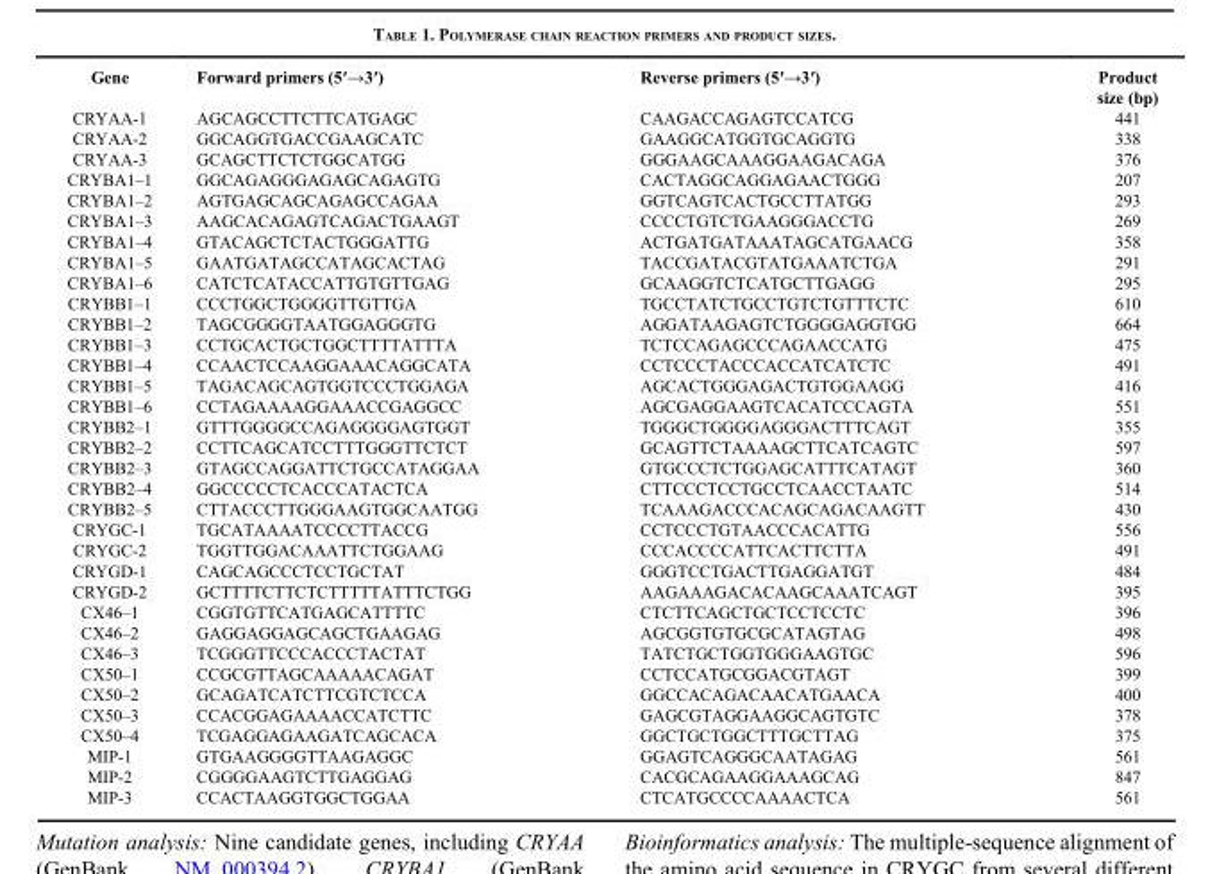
<table><thead><tr><td>Gene</td><td>Forward primers (5′→3′)</td><td>Reverse primers (5′→3′)</td><td>Product size (bp)</td></tr></thead><tbody><tr><td>CRYAA-1</td><td>AGCAGCCTTCTTCATGAGC</td><td>CAAGACCAGAGTCCATCG</td><td>441</td></tr><tr><td>CRYAA-2</td><td>GGCAGGTGACCGAAGCATC</td><td>GAAGGCATGGTGCAGGTG</td><td>338</td></tr><tr><td>CRYAA-3</td><td>GCAGCTTCTCTGGCATGG</td><td>GGGAAGCAAAGGAAGACAGA</td><td>376</td></tr><tr><td>CRYBA1–1</td><td>GGCAGAGGGAGAGCAGAGTG</td><td>CACTAGGCAGGAGAACTGGG</td><td>207</td></tr><tr><td>CRYBA1–2</td><td>AGTGAGCAGCAGAGCCAGAA</td><td>GGTCAGTCACTGCCTTATGG</td><td>293</td></tr><tr><td>CRYBA1–3</td><td>AAGCACAGAGTCAGACTGAAGT</td><td>CCCCTGTCTGAAGGGACCTG</td><td>269</td></tr><tr><td>CRYBA1–4</td><td>GTACAGCTCTACTGGGATTG</td><td>ACTGATGATAAATAGCATGAACG</td><td>358</td></tr><tr><td>CRYBA1–5</td><td>GAATGATAGCCATAGCACTAG</td><td>TACCGATACGTATGAAATCTGA</td><td>291</td></tr><tr><td>CRYBA1–6</td><td>CATCTCATACCATTGTGTTGAG</td><td>GCAAGGTCTCATGCTTGAGG</td><td>295</td></tr><tr><td>CRYBB1–1</td><td>CCCTGGCTGGGGTTGTTGA</td><td>TGCCTATCTGCCTGTCTGTTTCTC</td><td>610</td></tr><tr><td>CRYBB1–2</td><td>TAGCGGGGTAATGGAGGGTG</td><td>AGGATAAGAGTCTGGGGAGGTGG</td><td>664</td></tr><tr><td>CRYBB1–3</td><td>CCTGCACTGCTGGCTTTTATTTA</td><td>TCTCCAGAGCCCAGAACCATG</td><td>475</td></tr><tr><td>CRYBB1–4</td><td>CCAACTCCAAGGAAACAGGCATA</td><td>CCTCCCTACCCACCATCATCTC</td><td>491</td></tr><tr><td>CRYBB1–5</td><td>TAGACAGCAGTGGTCCCTGGAGA</td><td>AGCACTGGGAGACTGTGGAAGG</td><td>416</td></tr><tr><td>CRYBB1–6</td><td>CCTAGAAAAGGAAACCGAGGCC</td><td>AGCGAGGAAGTCACATCCCAGTA</td><td>551</td></tr><tr><td>CRYBB2–1</td><td>GTTTGGGGCCAGAGGGGAGTGGT</td><td>TGGGCTGGGGAGGGACTTTCAGT</td><td>355</td></tr><tr><td>CRYBB2–2</td><td>CCTTCAGCATCCTTTGGGTTCTCT</td><td>GCAGTTCTAAAAGCTTCATCAGTC</td><td>597</td></tr><tr><td>CRYBB2–3</td><td>GTAGCCAGGATTCTGCCATAGGAA</td><td>GTGCCCTCTGGAGCATTTCATAGT</td><td>360</td></tr><tr><td>CRYBB2–4</td><td>GGCCCCCTCACCCATACTCA</td><td>CTTCCCTCCTGCCTCAACCTAATC</td><td>514</td></tr><tr><td>CRYBB2–5</td><td>CTTACCCTTGGGAAGTGGCAATGG</td><td>TCAAAGACCCACAGCAGACAAGTT</td><td>430</td></tr><tr><td>CRYGC-1</td><td>TGCATAAAATCCCCTTACCG</td><td>CCTCCCTGTAACCCACATTG</td><td>556</td></tr><tr><td>CRYGC-2</td><td>TGGTTGGACAAATTCTGGAAG</td><td>CCCACCCCATTCACTTCTTA</td><td>491</td></tr><tr><td>CRYGD-1</td><td>CAGCAGCCCTCCTGCTAT</td><td>GGGTCCTGACTTGAGGATGT</td><td>484</td></tr><tr><td>CRYGD-2</td><td>GCTTTTCTTCTCTTTTTATTTCTGG</td><td>AAGAAAGACACAAGCAAATCAGT</td><td>395</td></tr><tr><td>CX46–1</td><td>CGGTGTTCATGAGCATTTTC</td><td>CTCTTCAGCTGCTCCTCCTC</td><td>396</td></tr><tr><td>CX46–2</td><td>GAGGAGGAGCAGCTGAAGAG</td><td>AGCGGTGTGCGCATAGTAG</td><td>498</td></tr><tr><td>CX46–3</td><td>TCGGGTTCCCACCCTACTAT</td><td>TATCTGCTGGTGGGAAGTGC</td><td>596</td></tr><tr><td>CX50–1</td><td>CCGCGTTAGCAAAAACAGAT</td><td>CCTCCATGCGGACGTAGT</td><td>399</td></tr><tr><td>CX50–2</td><td>GCAGATCATCTTCGTCTCCA</td><td>GGCCACAGACAACATGAACA</td><td>400</td></tr><tr><td>CX50–3</td><td>CCACGGAGAAAACCATCTTC</td><td>GAGCGTAGGAAGGCAGTGTC</td><td>378</td></tr><tr><td>CX50–4</td><td>TCGAGGAGAAGATCAGCACA</td><td>GGCTGCTGGCTTTGCTTAG</td><td>375</td></tr><tr><td>MIP-1</td><td>GTGAAGGGGTTAAGAGGC</td><td>GGAGTCAGGGCAATAGAG</td><td>561</td></tr><tr><td>MIP-2</td><td>CGGGGAAGTCTTGAGGAG</td><td>CACGCAGAAGGAAAGCAG</td><td>847</td></tr><tr><td>MIP-3</td><td>CCACTAAGGTGGCTGGAA</td><td>CTCATGCCCCAAAACTCA</td><td>561</td></tr></tbody></table>